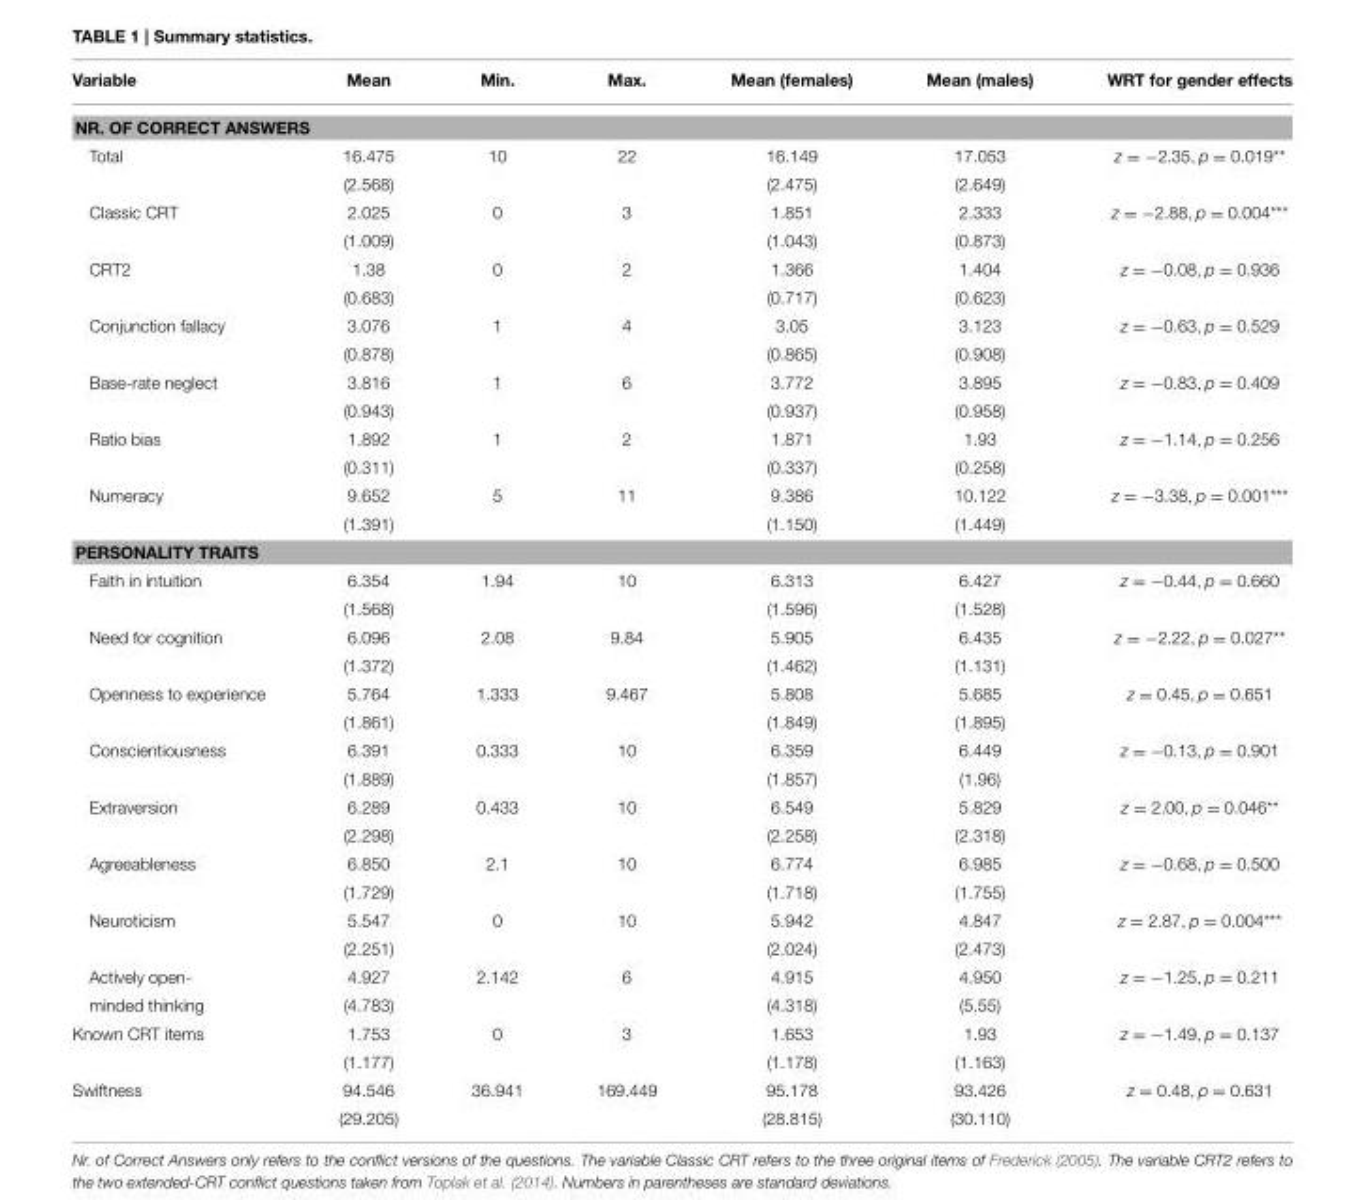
<table><thead><tr><td>Variable</td><td>Mean</td><td>Min.</td><td>Max.</td><td>Mean (females)</td><td>Mean (males)</td><td>WRT for gender effects</td></tr></thead><tbody><tr><td colspan="7">NR. OF CORRECT ANSWERS</td></tr><tr><td rowspan="2">Total</td><td>16.475</td><td>10</td><td>22</td><td>16.149</td><td>17.053</td><td>z = −2.35, p = 0.019**</td></tr><tr><td>(2.568)</td><td></td><td></td><td>(2.475)</td><td>(2.649)</td><td></td></tr><tr><td rowspan="2">Classic CRT</td><td>2.025</td><td>0</td><td>3</td><td>1.851</td><td>2.333</td><td>z = −2.88, p = 0.004***</td></tr><tr><td>(1.009)</td><td></td><td></td><td>(1.043)</td><td>(0.873)</td><td></td></tr><tr><td rowspan="2">CRT2</td><td>1.38</td><td>0</td><td>2</td><td>1.366</td><td>1.404</td><td>z = −0.08, p = 0.936</td></tr><tr><td>(0.683)</td><td></td><td></td><td>(0.717)</td><td>(0.623)</td><td></td></tr><tr><td rowspan="2">Conjunction fallacy</td><td>3.076</td><td>1</td><td>4</td><td>3.05</td><td>3.123</td><td>z = −0.63, p = 0.529</td></tr><tr><td>(0.878)</td><td></td><td></td><td>(0.865)</td><td>(0.908)</td><td></td></tr><tr><td rowspan="2">Base-rate neglect</td><td>3.816</td><td>1</td><td>6</td><td>3.772</td><td>3.895</td><td>z = −0.83, p = 0.409</td></tr><tr><td>(0.943)</td><td></td><td></td><td>(0.937)</td><td>(0.958)</td><td></td></tr><tr><td rowspan="2">Ratio bias</td><td>1.892</td><td>1</td><td>2</td><td>1.871</td><td>1.93</td><td>z = −1.14, p = 0.256</td></tr><tr><td>(0.311)</td><td></td><td></td><td>(0.337)</td><td>(0.258)</td><td></td></tr><tr><td rowspan="2">Numeracy</td><td>9.652</td><td>5</td><td>11</td><td>9.386</td><td>10.122</td><td>z = −3.38, p = 0.001***</td></tr><tr><td>(1.391)</td><td></td><td></td><td>(1.150)</td><td>(1.449)</td><td></td></tr><tr><td colspan="7">PERSONALITY TRAITS</td></tr><tr><td rowspan="2">Faith in intuition</td><td>6.354</td><td>1.94</td><td>10</td><td>6.313</td><td>6.427</td><td>z = −0.44, p = 0.660</td></tr><tr><td>(1.568)</td><td></td><td></td><td>(1.596)</td><td>(1.528)</td><td></td></tr><tr><td rowspan="2">Need for cognition</td><td>6.096</td><td>2.08</td><td>9.84</td><td>5.905</td><td>6.435</td><td>z = −2.22, p = 0.027**</td></tr><tr><td>(1.372)</td><td></td><td></td><td>(1.462)</td><td>(1.131)</td><td></td></tr><tr><td rowspan="2">Openness to experience</td><td>5.764</td><td>1.333</td><td>9.467</td><td>5.808</td><td>5.685</td><td>z = 0.45, p = 0.651</td></tr><tr><td>(1.861)</td><td></td><td></td><td>(1.849)</td><td>(1.895)</td><td></td></tr><tr><td rowspan="2">Conscientiousness</td><td>6.391</td><td>0.333</td><td>10</td><td>6.359</td><td>6.449</td><td>z = −0.13, p = 0.901</td></tr><tr><td>(1.889)</td><td></td><td></td><td>(1.857)</td><td>(1.96)</td><td></td></tr><tr><td rowspan="2">Extraversion</td><td>6.289</td><td>0.433</td><td>10</td><td>6.549</td><td>5.829</td><td>z = 2.00, p = 0.046**</td></tr><tr><td>(2.298)</td><td></td><td></td><td>(2.258)</td><td>(2.318)</td><td></td></tr><tr><td rowspan="2">Agreeableness</td><td>6.850</td><td>2.1</td><td>10</td><td>6.774</td><td>6.985</td><td>z = −0.68, p = 0.500</td></tr><tr><td>(1.729)</td><td></td><td></td><td>(1.718)</td><td>(1.755)</td><td></td></tr><tr><td rowspan="2">Neuroticism</td><td>5.547</td><td>0</td><td>10</td><td>5.942</td><td>4.847</td><td>z = 2.87, p = 0.004***</td></tr><tr><td>(2.251)</td><td></td><td></td><td>(2.024)</td><td>(2.473)</td><td></td></tr><tr><td rowspan="2">Actively open- minded thinking</td><td>4.927</td><td>2.142</td><td>6</td><td>4.915</td><td>4.950</td><td>z = −1.25, p = 0.211</td></tr><tr><td>(4.783)</td><td></td><td></td><td>(4.318)</td><td>(5.55)</td><td></td></tr><tr><td rowspan="2">Known CRT items</td><td>1.753</td><td>0</td><td>3</td><td>1.653</td><td>1.93</td><td>z = −1.49, p = 0.137</td></tr><tr><td>(1.177)</td><td></td><td></td><td>(1.178)</td><td>(1.163)</td><td></td></tr><tr><td rowspan="2">Swiftness</td><td>94.546</td><td>36.941</td><td>169.449</td><td>95.178</td><td>93.426</td><td>z = 0.48, p = 0.631</td></tr><tr><td>(29.205)</td><td></td><td></td><td>(28.815)</td><td>(30.110)</td><td></td></tr></tbody></table>